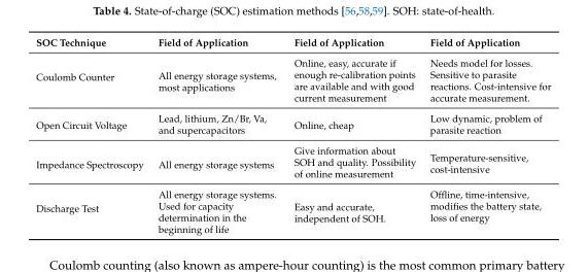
<table><thead><tr><td>SOC Technique</td><td>Field of Application</td><td>Field of Application</td><td>Field of Application</td></tr></thead><tbody><tr><td>Coulomb Counter</td><td>All energy storage systems, most applications</td><td>Online, easy, accurate if enough re-calibration points are available and with good current measurement</td><td>Needs model for losses. Sensitive to parasite reactions. Cost-intensive for accurate measurement.</td></tr><tr><td>Open Circuit Voltage</td><td>Lead, lithium, Zn/Br, Va, and supercapacitors</td><td>Online, cheap</td><td>Low dynamic, problem of parasite reaction</td></tr><tr><td>Impedance Spectroscopy</td><td>All energy storage systems</td><td>Give information about SOH and quality. Possibility of online measurement</td><td>Temperature-sensitive, cost-intensive</td></tr><tr><td>Discharge Test</td><td>All energy storage systems. Used for capacity determination in the beginning of life</td><td>Easy and accurate, independent of SOH.</td><td>Offline, time-intensive, modifies the battery state, loss of energy</td></tr></tbody></table>